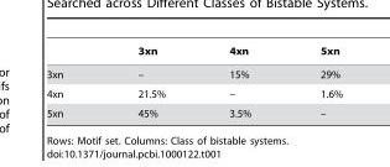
<table><thead><tr><td></td><td>3xn</td><td>4xn</td><td>5xn</td></tr></thead><tbody><tr><td>3xn</td><td>–</td><td>15%</td><td>29%</td></tr><tr><td>4xn</td><td>21.5%</td><td>–</td><td>1.6%</td></tr><tr><td>5xn</td><td>45%</td><td>3.5%</td><td>–</td></tr></tbody></table>